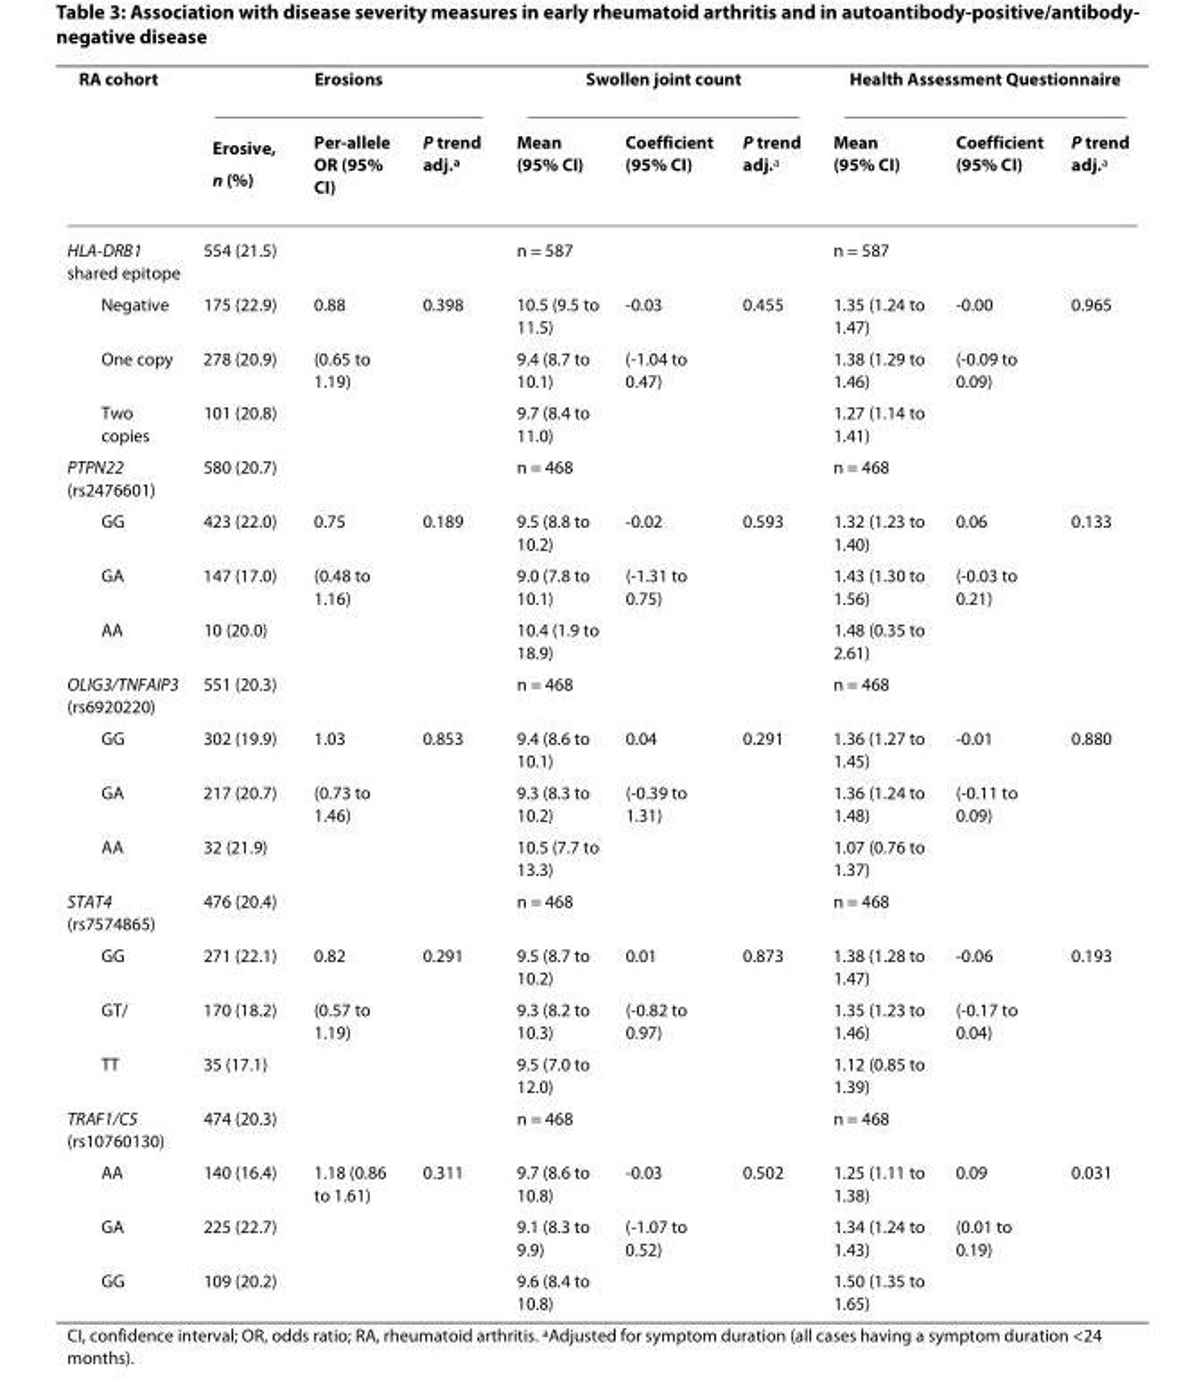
<table><thead><tr><td rowspan="2">RA cohort</td><td colspan="3">Erosions</td><td colspan="3">Swollen joint count</td><td colspan="3">Health Assessment Questionnaire</td></tr><tr><td>Erosive, n (%)</td><td>Per-allele OR (95% CI)</td><td>P trend adj.<sup>a</sup></td><td>Mean (95% CI)</td><td>Coefficient (95% CI)</td><td>P trend adj.<sup>a</sup></td><td>Mean (95% CI)</td><td>Coefficient (95% CI)</td><td>P trend adj.<sup>a</sup></td></tr></thead><tbody><tr><td>HLA-DRB1 shared epitope</td><td>554 (21.5)</td><td></td><td></td><td>n = 587</td><td></td><td></td><td>n = 587</td><td></td><td></td></tr><tr><td>Negative</td><td>175 (22.9)</td><td>0.88</td><td>0.398</td><td>10.5 (9.5 to 11.5)</td><td>-0.03</td><td>0.455</td><td>1.35 (1.24 to 1.47)</td><td>-0.00</td><td>0.965</td></tr><tr><td>One copy</td><td>278 (20.9)</td><td>(0.65 to 1.19)</td><td></td><td>9.4 (8.7 to 10.1)</td><td>(-1.04 to 0.47)</td><td></td><td>1.38 (1.29 to 1.46)</td><td>(-0.09 to 0.09)</td><td></td></tr><tr><td>Two copies</td><td>101 (20.8)</td><td></td><td></td><td>9.7 (8.4 to 11.0)</td><td></td><td></td><td>1.27 (1.14 to 1.41)</td><td></td><td></td></tr><tr><td>PTPN22 (rs2476601)</td><td>580 (20.7)</td><td></td><td></td><td>n = 468</td><td></td><td></td><td>n = 468</td><td></td><td></td></tr><tr><td>GG</td><td>423 (22.0)</td><td>0.75</td><td>0.189</td><td>9.5 (8.8 to 10.2)</td><td>-0.02</td><td>0.593</td><td>1.32 (1.23 to 1.40)</td><td>0.06</td><td>0.133</td></tr><tr><td>GA</td><td>147 (17.0)</td><td>(0.48 to 1.16)</td><td></td><td>9.0 (7.8 to 10.1)</td><td>(-1.31 to 0.75)</td><td></td><td>1.43 (1.30 to 1.56)</td><td>(-0.03 to 0.21)</td><td></td></tr><tr><td>AA</td><td>10 (20.0)</td><td></td><td></td><td>10.4 (1.9 to 18.9)</td><td></td><td></td><td>1.48 (0.35 to 2.61)</td><td></td><td></td></tr><tr><td>OLIG3/TNFAIP3 (rs6920220)</td><td>551 (20.3)</td><td></td><td></td><td>n = 468</td><td></td><td></td><td>n = 468</td><td></td><td></td></tr><tr><td>GG</td><td>302 (19.9)</td><td>1.03</td><td>0.853</td><td>9.4 (8.6 to 10.1)</td><td>0.04</td><td>0.291</td><td>1.36 (1.27 to 1.45)</td><td>-0.01</td><td>0.880</td></tr><tr><td>GA</td><td>217 (20.7)</td><td>(0.73 to 1.46)</td><td></td><td>9.3 (8.3 to 10.2)</td><td>(-0.39 to 1.31)</td><td></td><td>1.36 (1.24 to 1.48)</td><td>(-0.11 to 0.09)</td><td></td></tr><tr><td>AA</td><td>32 (21.9)</td><td></td><td></td><td>10.5 (7.7 to 13.3)</td><td></td><td></td><td>1.07 (0.76 to 1.37)</td><td></td><td></td></tr><tr><td>STAT4 (rs7574865)</td><td>476 (20.4)</td><td></td><td></td><td>n = 468</td><td></td><td></td><td>n = 468</td><td></td><td></td></tr><tr><td>GG</td><td>271 (22.1)</td><td>0.82</td><td>0.291</td><td>9.5 (8.7 to 10.2)</td><td>0.01</td><td>0.873</td><td>1.38 (1.28 to 1.47)</td><td>-0.06</td><td>0.193</td></tr><tr><td>GT/</td><td>170 (18.2)</td><td>(0.57 to 1.19)</td><td></td><td>9.3 (8.2 to 10.3)</td><td>(-0.82 to 0.97)</td><td></td><td>1.35 (1.23 to 1.46)</td><td>(-0.17 to 0.04)</td><td></td></tr><tr><td>TT</td><td>35 (17.1)</td><td></td><td></td><td>9.5 (7.0 to 12.0)</td><td></td><td></td><td>1.12 (0.85 to 1.39)</td><td></td><td></td></tr><tr><td>TRAF1/C5 (rs10760130)</td><td>474 (20.3)</td><td></td><td></td><td>n = 468</td><td></td><td></td><td>n = 468</td><td></td><td></td></tr><tr><td>AA</td><td>140 (16.4)</td><td>1.18 (0.86 to 1.61)</td><td>0.311</td><td>9.7 (8.6 to 10.8)</td><td>-0.03</td><td>0.502</td><td>1.25 (1.11 to 1.38)</td><td>0.09</td><td>0.031</td></tr><tr><td>GA</td><td>225 (22.7)</td><td></td><td></td><td>9.1 (8.3 to 9.9)</td><td>(-1.07 to 0.52)</td><td></td><td>1.34 (1.24 to 1.43)</td><td>(0.01 to 0.19)</td><td></td></tr><tr><td>GG</td><td>109 (20.2)</td><td></td><td></td><td>9.6 (8.4 to 10.8)</td><td></td><td></td><td>1.50 (1.35 to 1.65)</td><td></td><td></td></tr></tbody></table>